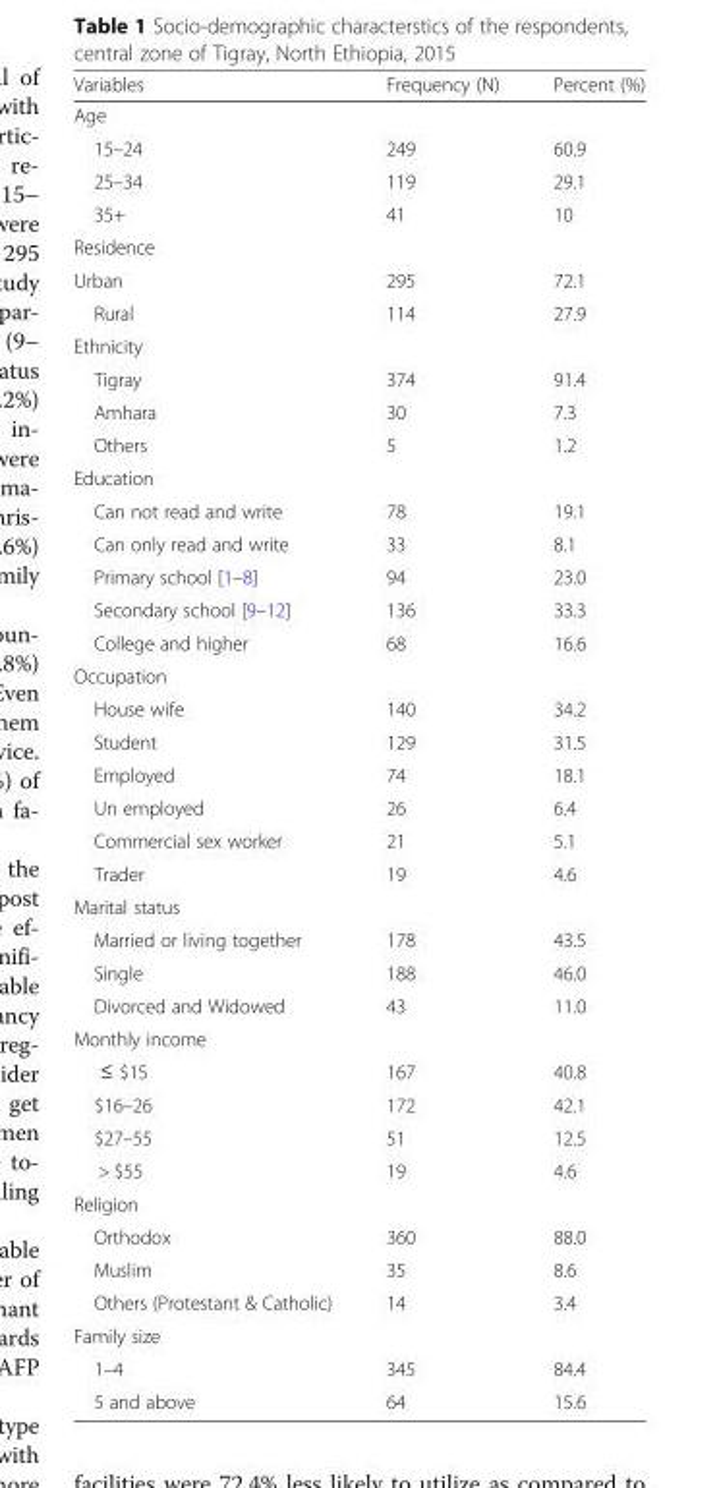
<table><thead><tr><td>Variables</td><td>Frequency (N)</td><td>Percent (%)</td></tr></thead><tbody><tr><td colspan="3">Age</td></tr><tr><td>15–24</td><td>249</td><td>60.9</td></tr><tr><td>25–34</td><td>119</td><td>29.1</td></tr><tr><td>35+</td><td>41</td><td>10</td></tr><tr><td colspan="3">Residence</td></tr><tr><td>Urban</td><td>295</td><td>72.1</td></tr><tr><td>Rural</td><td>114</td><td>27.9</td></tr><tr><td colspan="3">Ethnicity</td></tr><tr><td>Tigray</td><td>374</td><td>91.4</td></tr><tr><td>Amhara</td><td>30</td><td>7.3</td></tr><tr><td>Others</td><td>5</td><td>1.2</td></tr><tr><td colspan="3">Education</td></tr><tr><td>Can not read and write</td><td>78</td><td>19.1</td></tr><tr><td>Can only read and write</td><td>33</td><td>8.1</td></tr><tr><td>Primary school [1–8]</td><td>94</td><td>23.0</td></tr><tr><td>Secondary school [9–12]</td><td>136</td><td>33.3</td></tr><tr><td>College and higher</td><td>68</td><td>16.6</td></tr><tr><td colspan="3">Occupation</td></tr><tr><td>House wife</td><td>140</td><td>34.2</td></tr><tr><td>Student</td><td>129</td><td>31.5</td></tr><tr><td>Employed</td><td>74</td><td>18.1</td></tr><tr><td>Un employed</td><td>26</td><td>6.4</td></tr><tr><td>Commercial sex worker</td><td>21</td><td>5.1</td></tr><tr><td>Trader</td><td>19</td><td>4.6</td></tr><tr><td colspan="3">Marital status</td></tr><tr><td>Married or living together</td><td>178</td><td>43.5</td></tr><tr><td>Single</td><td>188</td><td>46.0</td></tr><tr><td>Divorced and Widowed</td><td>43</td><td>11.0</td></tr><tr><td colspan="3">Monthly income</td></tr><tr><td>≤ $15</td><td>167</td><td>40.8</td></tr><tr><td>$16–26</td><td>172</td><td>42.1</td></tr><tr><td>$27–55</td><td>51</td><td>12.5</td></tr><tr><td>&gt; $55</td><td>19</td><td>4.6</td></tr><tr><td colspan="3">Religion</td></tr><tr><td>Orthodox</td><td>360</td><td>88.0</td></tr><tr><td>Muslim</td><td>35</td><td>8.6</td></tr><tr><td>Others (Protestant &amp; Catholic)</td><td>14</td><td>3.4</td></tr><tr><td colspan="3">Family size</td></tr><tr><td>1–4</td><td>345</td><td>84.4</td></tr><tr><td>5 and above</td><td>64</td><td>15.6</td></tr></tbody></table>